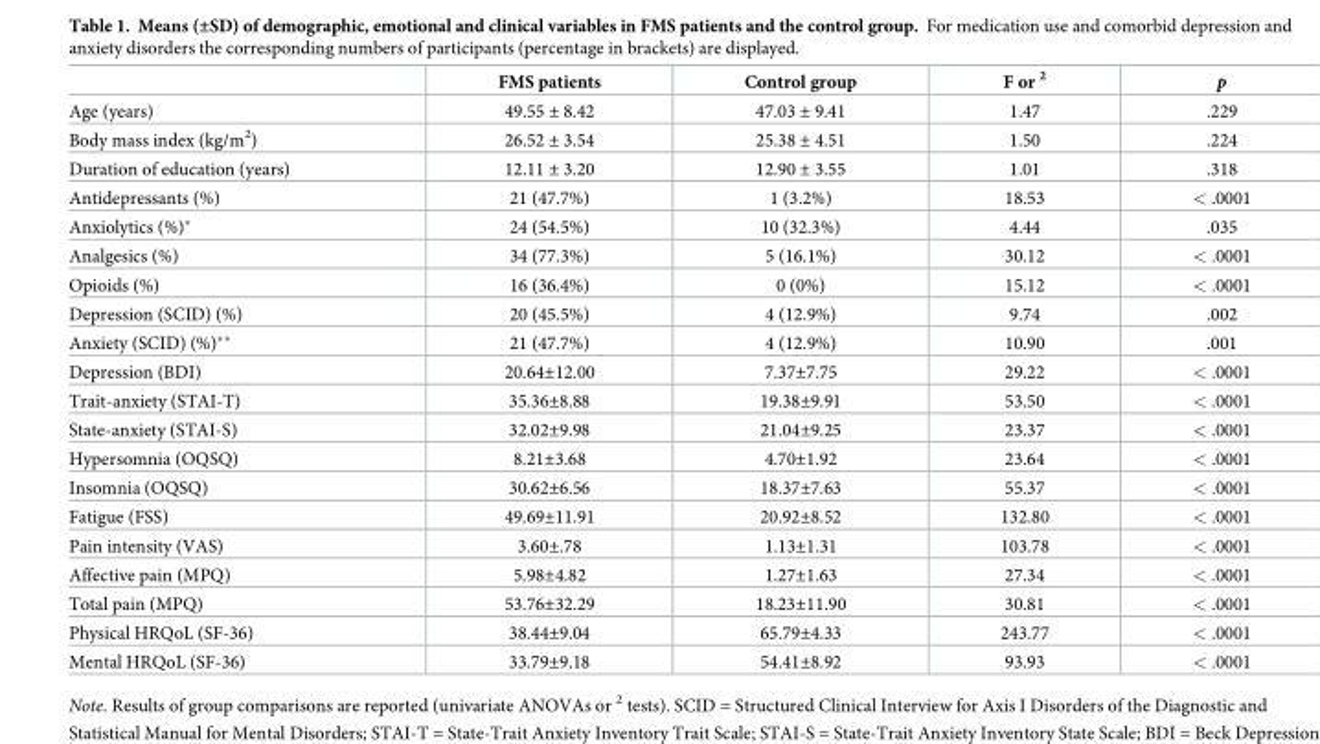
<table><thead><tr><td></td><td>FMS patients</td><td>Control group</td><td>F or 2</td><td>p</td></tr></thead><tbody><tr><td>Age (years)</td><td>49.55 ± 8.42</td><td>47.03 ± 9.41</td><td>1.47</td><td>.229</td></tr><tr><td>Body mass index (kg/m<sup>2</sup>)</td><td>26.52 ± 3.54</td><td>25.38 ± 4.51</td><td>1.50</td><td>.224</td></tr><tr><td>Duration of education (years)</td><td>12.11 ± 3.20</td><td>12.90 ± 3.55</td><td>1.01</td><td>.318</td></tr><tr><td>Antidepressants (%)</td><td>21 (47.7%)</td><td>1 (3.2%)</td><td>18.53</td><td>&lt; .0001</td></tr><tr><td>Anxiolytics (%)*</td><td>24 (54.5%)</td><td>10 (32.3%)</td><td>4.44</td><td>.035</td></tr><tr><td>Analgesics (%)</td><td>34 (77.3%)</td><td>5 (16.1%)</td><td>30.12</td><td>&lt; .0001</td></tr><tr><td>Opioids (%)</td><td>16 (36.4%)</td><td>0 (0%)</td><td>15.12</td><td>&lt; .0001</td></tr><tr><td>Depression (SCID) (%)</td><td>20 (45.5%)</td><td>4 (12.9%)</td><td>9.74</td><td>.002</td></tr><tr><td>Anxiety (SCID) (%)**</td><td>21 (47.7%)</td><td>4 (12.9%)</td><td>10.90</td><td>.001</td></tr><tr><td>Depression (BDI)</td><td>20.64±12.00</td><td>7.37±7.75</td><td>29.22</td><td>&lt; .0001</td></tr><tr><td>Trait-anxiety (STAI-T)</td><td>35.36±8.88</td><td>19.38±9.91</td><td>53.50</td><td>&lt; .0001</td></tr><tr><td>State-anxiety (STAI-S)</td><td>32.02±9.98</td><td>21.04±9.25</td><td>23.37</td><td>&lt; .0001</td></tr><tr><td>Hypersomnia (OQSQ)</td><td>8.21±3.68</td><td>4.70±1.92</td><td>23.64</td><td>&lt; .0001</td></tr><tr><td>Insomnia (OQSQ)</td><td>30.62±6.56</td><td>18.37±7.63</td><td>55.37</td><td>&lt; .0001</td></tr><tr><td>Fatigue (FSS)</td><td>49.69±11.91</td><td>20.92±8.52</td><td>132.80</td><td>&lt; .0001</td></tr><tr><td>Pain intensity (VAS)</td><td>3.60±.78</td><td>1.13±1.31</td><td>103.78</td><td>&lt; .0001</td></tr><tr><td>Affective pain (MPQ)</td><td>5.98±4.82</td><td>1.27±1.63</td><td>27.34</td><td>&lt; .0001</td></tr><tr><td>Total pain (MPQ)</td><td>53.76±32.29</td><td>18.23±11.90</td><td>30.81</td><td>&lt; .0001</td></tr><tr><td>Physical HRQoL (SF-36)</td><td>38.44±9.04</td><td>65.79±4.33</td><td>243.77</td><td>&lt; .0001</td></tr><tr><td>Mental HRQoL (SF-36)</td><td>33.79±9.18</td><td>54.41±8.92</td><td>93.93</td><td>&lt; .0001</td></tr></tbody></table>